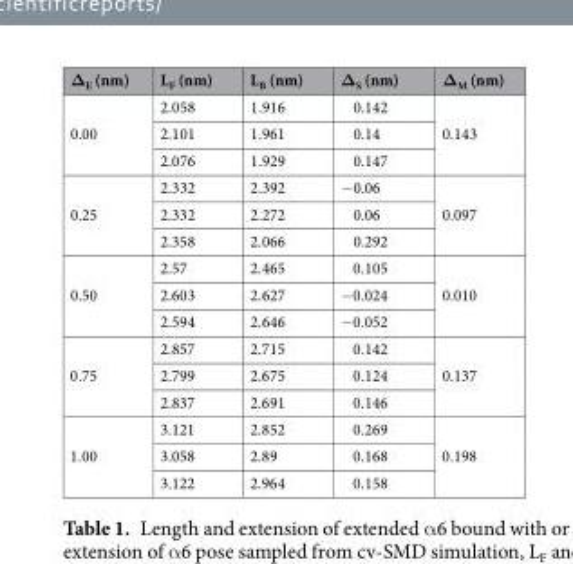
<table><thead><tr><td>Δ<sub>E</sub> (nm)</td><td>L<sub>F</sub> (nm)</td><td>L<sub>B</sub> (nm)</td><td>Δ<sub>S</sub> (nm)</td><td>Δ<sub>M</sub> (nm)</td></tr></thead><tbody><tr><td rowspan="3">0.00</td><td>2.058</td><td>1.916</td><td>0.142</td><td rowspan="3">0.143</td></tr><tr><td>2.101</td><td>1.961</td><td>0.14</td></tr><tr><td>2.076</td><td>1.929</td><td>0.147</td></tr><tr><td rowspan="3">0.25</td><td>2.332</td><td>2.392</td><td>−0.06</td><td rowspan="3">0.097</td></tr><tr><td>2.332</td><td>2.272</td><td>0.06</td></tr><tr><td>2.358</td><td>2.066</td><td>0.292</td></tr><tr><td rowspan="3">0.50</td><td>2.57</td><td>2.465</td><td>0.105</td><td rowspan="3">0.010</td></tr><tr><td>2.603</td><td>2.627</td><td>−0.024</td></tr><tr><td>2.594</td><td>2.646</td><td>−0.052</td></tr><tr><td rowspan="3">0.75</td><td>2.857</td><td>2.715</td><td>0.142</td><td rowspan="3">0.137</td></tr><tr><td>2.799</td><td>2.675</td><td>0.124</td></tr><tr><td>2.837</td><td>2.691</td><td>0.146</td></tr><tr><td rowspan="3">1.00</td><td>3.121</td><td>2.852</td><td>0.269</td><td rowspan="3">0.198</td></tr><tr><td>3.058</td><td>2.89</td><td>0.168</td></tr><tr><td>3.122</td><td>2.964</td><td>0.158</td></tr></tbody></table>